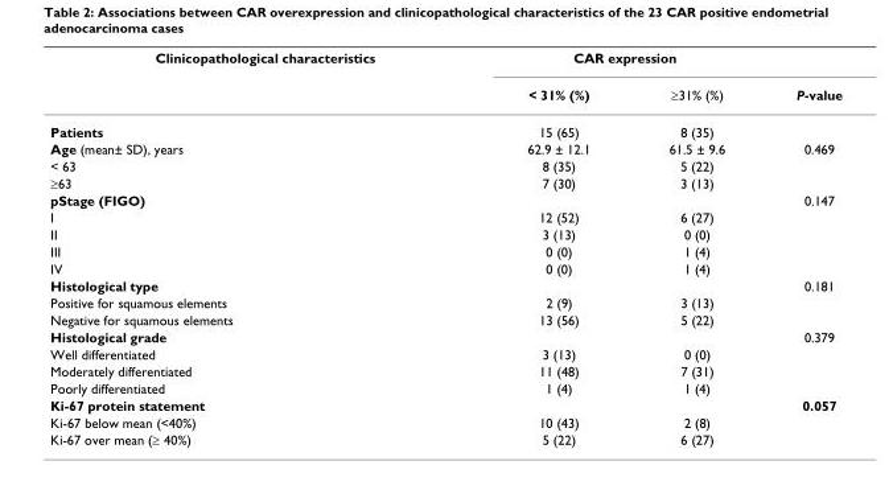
<table><thead><tr><td rowspan="2">Clinicopathological characteristics</td><td colspan="2">CAR expression</td><td rowspan="2">P-value</td></tr><tr><td>&lt; 31% (%)</td><td>≥31% (%)</td></tr></thead><tbody><tr><td>Patients</td><td>15 (65)</td><td>8 (35)</td><td></td></tr><tr><td>Age (mean± SD), years</td><td>62.9 ± 12.1</td><td>61.5 ± 9.6</td><td>0.469</td></tr><tr><td>&lt; 63</td><td>8 (35)</td><td>5 (22)</td><td></td></tr><tr><td>≥63</td><td>7 (30)</td><td>3 (13)</td><td></td></tr><tr><td>pStage (FIGO)</td><td></td><td></td><td>0.147</td></tr><tr><td>I</td><td>12 (52)</td><td>6 (27)</td><td></td></tr><tr><td>II</td><td>3 (13)</td><td>0 (0)</td><td></td></tr><tr><td>III</td><td>0 (0)</td><td>1 (4)</td><td></td></tr><tr><td>IV</td><td>0 (0)</td><td>1 (4)</td><td></td></tr><tr><td>Histological type</td><td></td><td></td><td>0.181</td></tr><tr><td>Positive for squamous elements</td><td>2 (9)</td><td>3 (13)</td><td></td></tr><tr><td>Negative for squamous elements</td><td>13 (56)</td><td>5 (22)</td><td></td></tr><tr><td>Histological grade</td><td></td><td></td><td>0.379</td></tr><tr><td>Well differentiated</td><td>3 (13)</td><td>0 (0)</td><td></td></tr><tr><td>Moderately differentiated</td><td>11 (48)</td><td>7 (31)</td><td></td></tr><tr><td>Poorly differentiated</td><td>1 (4)</td><td>1 (4)</td><td></td></tr><tr><td>Ki-67 protein statement</td><td></td><td></td><td>0.057</td></tr><tr><td>Ki-67 below mean (&lt;40%)</td><td>10 (43)</td><td>2 (8)</td><td></td></tr><tr><td>Ki-67 over mean (≥ 40%)</td><td>5 (22)</td><td>6 (27)</td><td></td></tr></tbody></table>